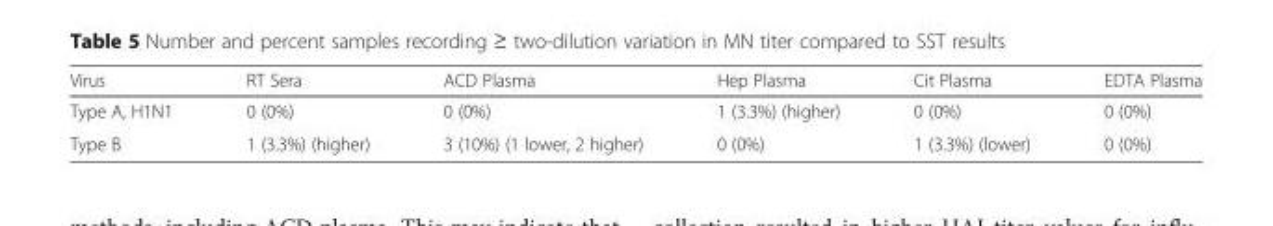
<table><thead><tr><td>Virus</td><td>RT Sera</td><td>ACD Plasma</td><td>Hep Plasma</td><td>Cit Plasma</td><td>EDTA Plasma</td></tr></thead><tbody><tr><td>Type A, H1N1</td><td>0 (0%)</td><td>0 (0%)</td><td>1 (3.3%) (higher)</td><td>0 (0%)</td><td>0 (0%)</td></tr><tr><td>Type B</td><td>1 (3.3%) (higher)</td><td>3 (10%) (1 lower, 2 higher)</td><td>0 (0%)</td><td>1 (3.3%) (lower)</td><td>0 (0%)</td></tr></tbody></table>